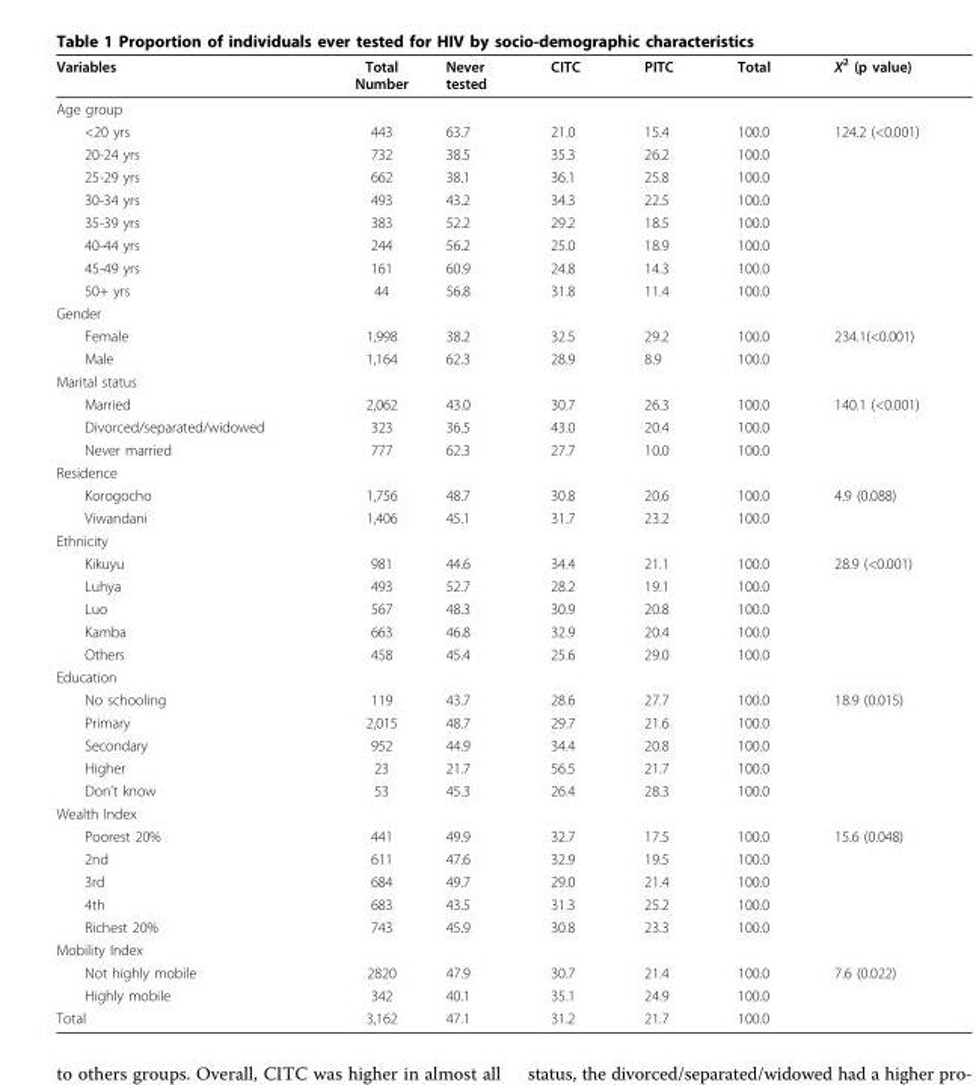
<table><thead><tr><td>Variables</td><td>Total Number</td><td>Never tested</td><td>CITC</td><td>PITC</td><td>Total</td><td>X<sup>2</sup> (p value)</td></tr></thead><tbody><tr><td colspan="7">Age group</td></tr><tr><td>&lt;20 yrs</td><td>443</td><td>63.7</td><td>21.0</td><td>15.4</td><td>100.0</td><td>124.2 (&lt;0.001)</td></tr><tr><td>20-24 yrs</td><td>732</td><td>38.5</td><td>35.3</td><td>26.2</td><td>100.0</td><td></td></tr><tr><td>25-29 yrs</td><td>662</td><td>38.1</td><td>36.1</td><td>25.8</td><td>100.0</td><td></td></tr><tr><td>30-34 yrs</td><td>493</td><td>43.2</td><td>34.3</td><td>22.5</td><td>100.0</td><td></td></tr><tr><td>35-39 yrs</td><td>383</td><td>52.2</td><td>29.2</td><td>18.5</td><td>100.0</td><td></td></tr><tr><td>40-44 yrs</td><td>244</td><td>56.2</td><td>25.0</td><td>18.9</td><td>100.0</td><td></td></tr><tr><td>45-49 yrs</td><td>161</td><td>60.9</td><td>24.8</td><td>14.3</td><td>100.0</td><td></td></tr><tr><td>50+ yrs</td><td>44</td><td>56.8</td><td>31.8</td><td>11.4</td><td>100.0</td><td></td></tr><tr><td colspan="7">Gender</td></tr><tr><td>Female</td><td>1,998</td><td>38.2</td><td>32.5</td><td>29.2</td><td>100.0</td><td>234.1(&lt;0.001)</td></tr><tr><td>Male</td><td>1,164</td><td>62.3</td><td>28.9</td><td>8.9</td><td>100.0</td><td></td></tr><tr><td colspan="7">Marital status</td></tr><tr><td>Married</td><td>2,062</td><td>43.0</td><td>30.7</td><td>26.3</td><td>100.0</td><td>140.1 (&lt;0.001)</td></tr><tr><td>Divorced/separated/widowed</td><td>323</td><td>36.5</td><td>43.0</td><td>20.4</td><td>100.0</td><td></td></tr><tr><td>Never married</td><td>777</td><td>62.3</td><td>27.7</td><td>10.0</td><td>100.0</td><td></td></tr><tr><td colspan="7">Residence</td></tr><tr><td>Korogocho</td><td>1,756</td><td>48.7</td><td>30.8</td><td>20.6</td><td>100.0</td><td>4.9 (0.088)</td></tr><tr><td>Viwandani</td><td>1,406</td><td>45.1</td><td>31.7</td><td>23.2</td><td>100.0</td><td></td></tr><tr><td colspan="7">Ethnicity</td></tr><tr><td>Kikuyu</td><td>981</td><td>44.6</td><td>34.4</td><td>21.1</td><td>100.0</td><td>28.9 (&lt;0.001)</td></tr><tr><td>Luhya</td><td>493</td><td>52.7</td><td>28.2</td><td>19.1</td><td>100.0</td><td></td></tr><tr><td>Luo</td><td>567</td><td>48.3</td><td>30.9</td><td>20.8</td><td>100.0</td><td></td></tr><tr><td>Kamba</td><td>663</td><td>46.8</td><td>32.9</td><td>20.4</td><td>100.0</td><td></td></tr><tr><td>Others</td><td>458</td><td>45.4</td><td>25.6</td><td>29.0</td><td>100.0</td><td></td></tr><tr><td colspan="7">Education</td></tr><tr><td>No schooling</td><td>119</td><td>43.7</td><td>28.6</td><td>27.7</td><td>100.0</td><td>18.9 (0.015)</td></tr><tr><td>Primary</td><td>2,015</td><td>48.7</td><td>29.7</td><td>21.6</td><td>100.0</td><td></td></tr><tr><td>Secondary</td><td>952</td><td>44.9</td><td>34.4</td><td>20.8</td><td>100.0</td><td></td></tr><tr><td>Higher</td><td>23</td><td>21.7</td><td>56.5</td><td>21.7</td><td>100.0</td><td></td></tr><tr><td>Don’t know</td><td>53</td><td>45.3</td><td>26.4</td><td>28.3</td><td>100.0</td><td></td></tr><tr><td colspan="7">Wealth Index</td></tr><tr><td>Poorest 20%</td><td>441</td><td>49.9</td><td>32.7</td><td>17.5</td><td>100.0</td><td>15.6 (0.048)</td></tr><tr><td>2nd</td><td>611</td><td>47.6</td><td>32.9</td><td>19.5</td><td>100.0</td><td></td></tr><tr><td>3rd</td><td>684</td><td>49.7</td><td>29.0</td><td>21.4</td><td>100.0</td><td></td></tr><tr><td>4th</td><td>683</td><td>43.5</td><td>31.3</td><td>25.2</td><td>100.0</td><td></td></tr><tr><td>Richest 20%</td><td>743</td><td>45.9</td><td>30.8</td><td>23.3</td><td>100.0</td><td></td></tr><tr><td colspan="7">Mobility Index</td></tr><tr><td>Not highly mobile</td><td>2820</td><td>47.9</td><td>30.7</td><td>21.4</td><td>100.0</td><td>7.6 (0.022)</td></tr><tr><td>Highly mobile</td><td>342</td><td>40.1</td><td>35.1</td><td>24.9</td><td>100.0</td><td></td></tr><tr><td>Total</td><td>3,162</td><td>47.1</td><td>31.2</td><td>21.7</td><td>100.0</td><td></td></tr></tbody></table>